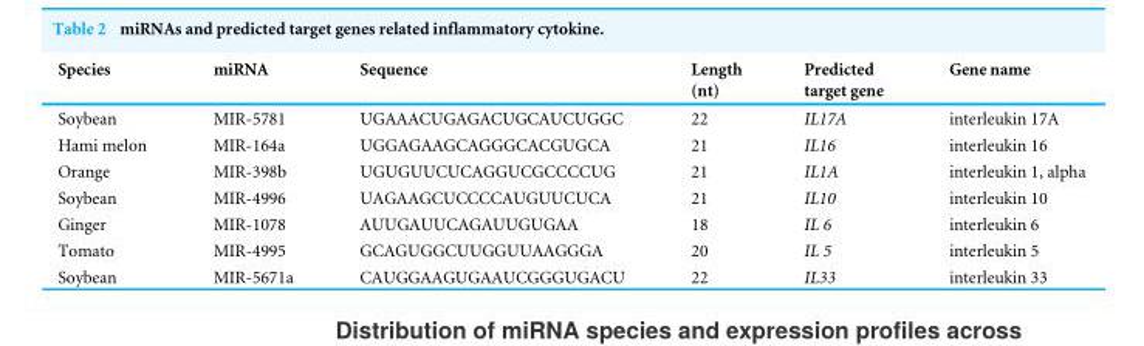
<table><thead><tr><td>Species</td><td>miRNA</td><td>Sequence</td><td>Length (nt)</td><td>Predicted target gene</td><td>Gene name</td></tr></thead><tbody><tr><td>Soybean</td><td>MIR-5781</td><td>UGAAACUGAGACUGCAUCUGGC</td><td>22</td><td>IL17A</td><td>interleukin 17A</td></tr><tr><td>Hami melon</td><td>MIR-164a</td><td>UGGAGAAGCAGGGCACGUGCA</td><td>21</td><td>IL16</td><td>interleukin 16</td></tr><tr><td>Orange</td><td>MIR-398b</td><td>UGUGUUCUCAGGUCGCCCCUG</td><td>21</td><td>IL1A</td><td>interleukin 1, alpha</td></tr><tr><td>Soybean</td><td>MIR-4996</td><td>UAGAAGCUCCCCAUGUUCUCA</td><td>21</td><td>IL10</td><td>interleukin 10</td></tr><tr><td>Ginger</td><td>MIR-1078</td><td>AUUGAUUCAGAUUGUGAA</td><td>18</td><td>IL 6</td><td>interleukin 6</td></tr><tr><td>Tomato</td><td>MIR-4995</td><td>GCAGUGGCUUGGUUAAGGGA</td><td>20</td><td>IL 5</td><td>interleukin 5</td></tr><tr><td>Soybean</td><td>MIR-5671a</td><td>CAUGGAAGUGAAUCGGGUGACU</td><td>22</td><td>IL33</td><td>interleukin 33</td></tr></tbody></table>